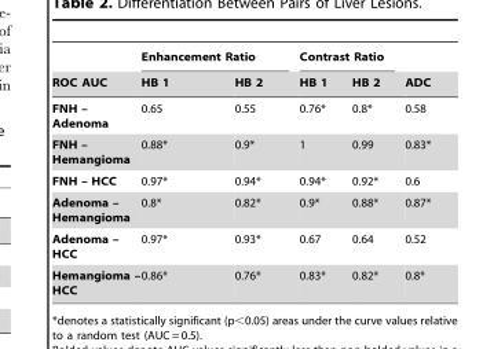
<table><thead><tr><td rowspan="2">ROC AUC</td><td colspan="2">Enhancement Ratio</td><td colspan="2">Contrast Ratio</td><td rowspan="2">ADC</td></tr><tr><td>HB 1</td><td>HB 2</td><td>HB 1</td><td>HB 2</td></tr></thead><tbody><tr><td>FNH – Adenoma</td><td>0.65</td><td>0.55</td><td>0.76*</td><td>0.8*</td><td>0.58</td></tr><tr><td>FNH – Hemangioma</td><td>0.88*</td><td>0.9*</td><td>1</td><td>0.99</td><td>0.83*</td></tr><tr><td>FNH – HCC</td><td>0.97*</td><td>0.94*</td><td>0.94*</td><td>0.92*</td><td>0.6</td></tr><tr><td>Adenoma – Hemangioma</td><td>0.8*</td><td>0.82*</td><td>0.9*</td><td>0.88*</td><td>0.87*</td></tr><tr><td>Adenoma – HCC</td><td>0.97*</td><td>0.93*</td><td>0.67</td><td>0.64</td><td>0.52</td></tr><tr><td>Hemangioma – HCC</td><td>0.86*</td><td>0.76*</td><td>0.83*</td><td>0.82*</td><td>0.8*</td></tr></tbody></table>